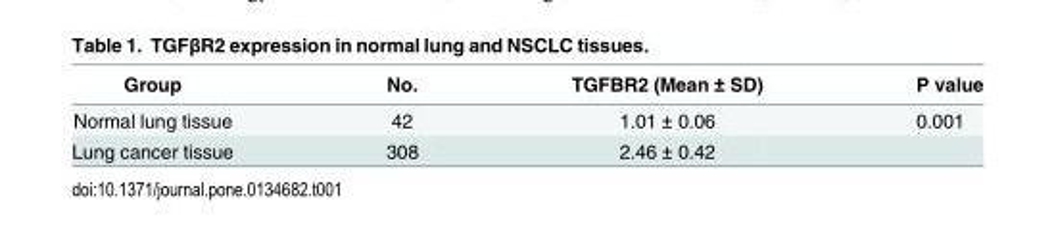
<table><thead><tr><td>Group</td><td>No.</td><td>TGFBR2 (Mean ± SD)</td><td>P value</td></tr></thead><tbody><tr><td>Normal lung tissue</td><td>42</td><td>1.01 ± 0.06</td><td>0.001</td></tr><tr><td>Lung cancer tissue</td><td>308</td><td>2.46 ± 0.42</td><td></td></tr></tbody></table>